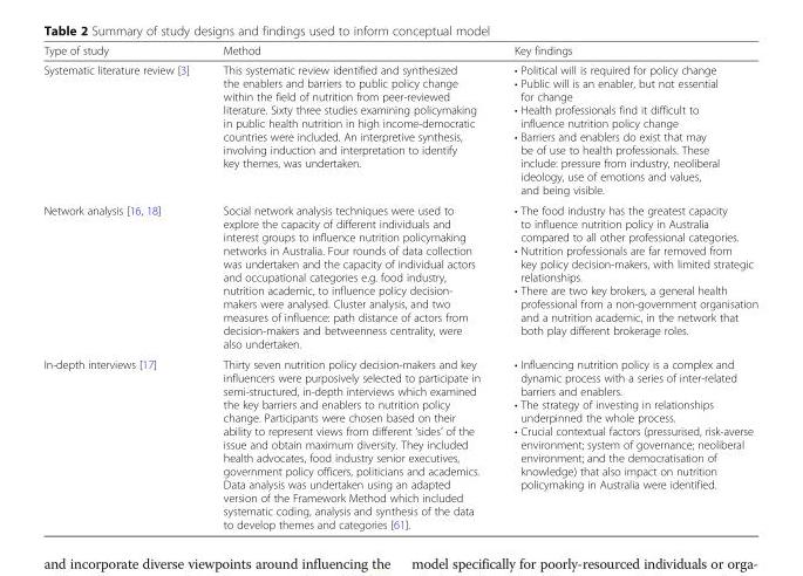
<table><thead><tr><td>Type of study</td><td>Method</td><td>Key findings</td></tr></thead><tbody><tr><td>Systematic literature review [3]</td><td>This systematic review identified and synthesized the enablers and barriers to public policy change within the field of nutrition from peer-reviewed literature. Sixty three studies examining policymaking in public health nutrition in high income-democratic countries were included. An interpretive synthesis, involving induction and interpretation to identify key themes, was undertaken.</td><td>• Political will is required for policy change • Public will is an enabler, but not essential for change • Health professionals find it difficult to influence nutrition policy change • Barriers and enablers do exist that may be of use to health professionals. These include: pressure from industry, neoliberal ideology, use of emotions and values, and being visible.</td></tr><tr><td>Network analysis [16, 18]</td><td>Social network analysis techniques were used to explore the capacity of different individuals and interest groups to influence nutrition policymaking networks in Australia. Four rounds of data collection was undertaken and the capacity of individual actors and occupational categories e.g. food industry, nutrition academic, to influence policy decision- makers were analysed. Cluster analysis, and two measures of influence: path distance of actors from decision-makers and betweenness centrality, were also undertaken.</td><td>• The food industry has the greatest capacity to influence nutrition policy in Australia compared to all other professional categories. • Nutrition professionals are far removed from key policy decision-makers, with limited strategic relationships. • There are two key brokers, a general health professional from a non-government organisation and a nutrition academic, in the network that both play different brokerage roles.</td></tr><tr><td>In-depth interviews [17]</td><td>Thirty seven nutrition policy decision-makers and key influencers were purposively selected to participate in semi-structured, in-depth interviews which examined the key barriers and enablers to nutrition policy change. Participants were chosen based on their ability to represent views from different ‘sides’ of the issue and obtain maximum diversity. They included health advocates, food industry senior executives, government policy officers, politicians and academics. Data analysis was undertaken using an adapted version of the Framework Method which included systematic coding, analysis and synthesis of the data to develop themes and categories [61].</td><td>• Influencing nutrition policy is a complex and dynamic process with a series of inter-related barriers and enablers. • The strategy of investing in relationships underpinned the whole process. • Crucial contextual factors (pressurised, risk-averse environment; system of governance; neoliberal environment; and the democratisation of knowledge) that also impact on nutrition policymaking in Australia were identified.</td></tr></tbody></table>